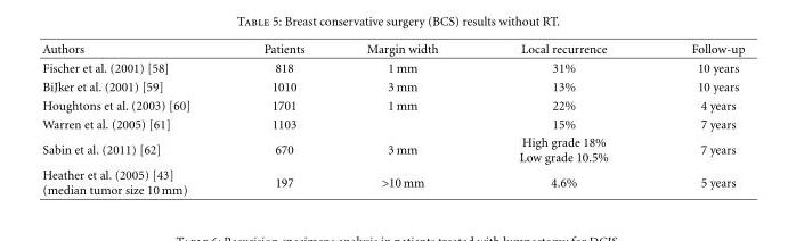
<table><thead><tr><td>Authors</td><td>Patients</td><td>Margin width</td><td>Local recurrence</td><td>Follow-up</td></tr></thead><tbody><tr><td>Fischer et al. (2001) [58]</td><td>818</td><td>1 mm</td><td>31%</td><td>10 years</td></tr><tr><td>BiJker et al. (2001) [59]</td><td>1010</td><td>3 mm</td><td>13%</td><td>10 years</td></tr><tr><td>Houghtons et al. (2003) [60]</td><td>1701</td><td>1 mm</td><td>22%</td><td>4 years</td></tr><tr><td>Warren et al. (2005) [61]</td><td>1103</td><td></td><td>15%</td><td>7 years</td></tr><tr><td>Sabin et al. (2011) [62]</td><td>670</td><td>3 mm</td><td>High grade 18% Low grade 10.5%</td><td>7 years</td></tr><tr><td>Heather et al. (2005) [43] (median tumor size 10 mm)</td><td>197</td><td>&gt;10 mm</td><td>4.6%</td><td>5 years</td></tr></tbody></table>